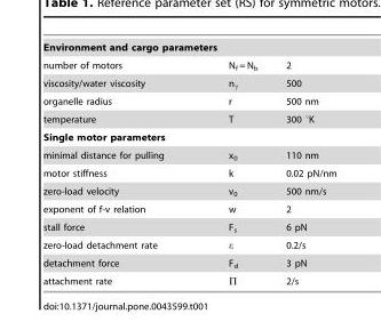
<table><tbody><tr><td colspan="3">Environment and cargo parameters</td></tr><tr><td>number of motors</td><td>N<sub>f</sub> = N<sub>b</sub></td><td>2</td></tr><tr><td>viscosity/water viscosity</td><td>n<sub>γ</sub></td><td>500</td></tr><tr><td>organelle radius</td><td>r</td><td>500 nm</td></tr><tr><td>temperature</td><td>T</td><td>300 °K</td></tr><tr><td colspan="3">Single motor parameters</td></tr><tr><td>minimal distance for pulling</td><td>x<sub>0</sub></td><td>110 nm</td></tr><tr><td>motor stiffness</td><td>k</td><td>0.02 pN/nm</td></tr><tr><td>zero-load velocity</td><td>v<sub>0</sub></td><td>500 nm/s</td></tr><tr><td>exponent of f-v relation</td><td>w</td><td>2</td></tr><tr><td>stall force</td><td>F<sub>s</sub></td><td>6 pN</td></tr><tr><td>zero-load detachment rate</td><td>ε</td><td>0.2/s</td></tr><tr><td>detachment force</td><td>F<sub>d</sub></td><td>3 pN</td></tr><tr><td>attachment rate</td><td>Π</td><td>2/s</td></tr></tbody></table>